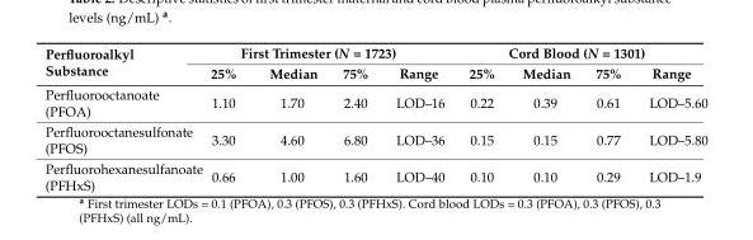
<table><thead><tr><td rowspan="2">Perfluoroalkyl Substance</td><td colspan="4">First Trimester (N = 1723)</td><td colspan="4">Cord Blood (N = 1301)</td></tr><tr><td>25%</td><td>Median</td><td>75%</td><td>Range</td><td>25%</td><td>Median</td><td>75%</td><td>Range</td></tr></thead><tbody><tr><td>Perfluorooctanoate (PFOA)</td><td>1.10</td><td>1.70</td><td>2.40</td><td>LOD–16</td><td>0.22</td><td>0.39</td><td>0.61</td><td>LOD–5.60</td></tr><tr><td>Perfluorooctanesulfonate (PFOS)</td><td>3.30</td><td>4.60</td><td>6.80</td><td>LOD–36</td><td>0.15</td><td>0.15</td><td>0.77</td><td>LOD–5.80</td></tr><tr><td>Perfluorohexanesulfanoate (PFHxS)</td><td>0.66</td><td>1.00</td><td>1.60</td><td>LOD–40</td><td>0.10</td><td>0.10</td><td>0.29</td><td>LOD–1.9</td></tr></tbody></table>